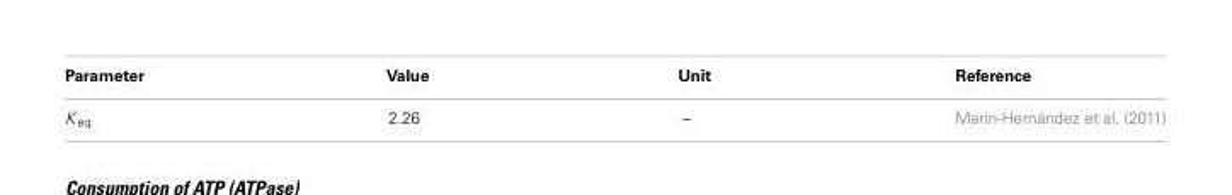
<table><thead><tr><td>Parameter</td><td>Value</td><td>Unit</td><td>Reference</td></tr></thead><tbody><tr><td>K <sub>eq</sub></td><td>2.26</td><td>–</td><td>Marín-Hernández et al. (2011)</td></tr></tbody></table>